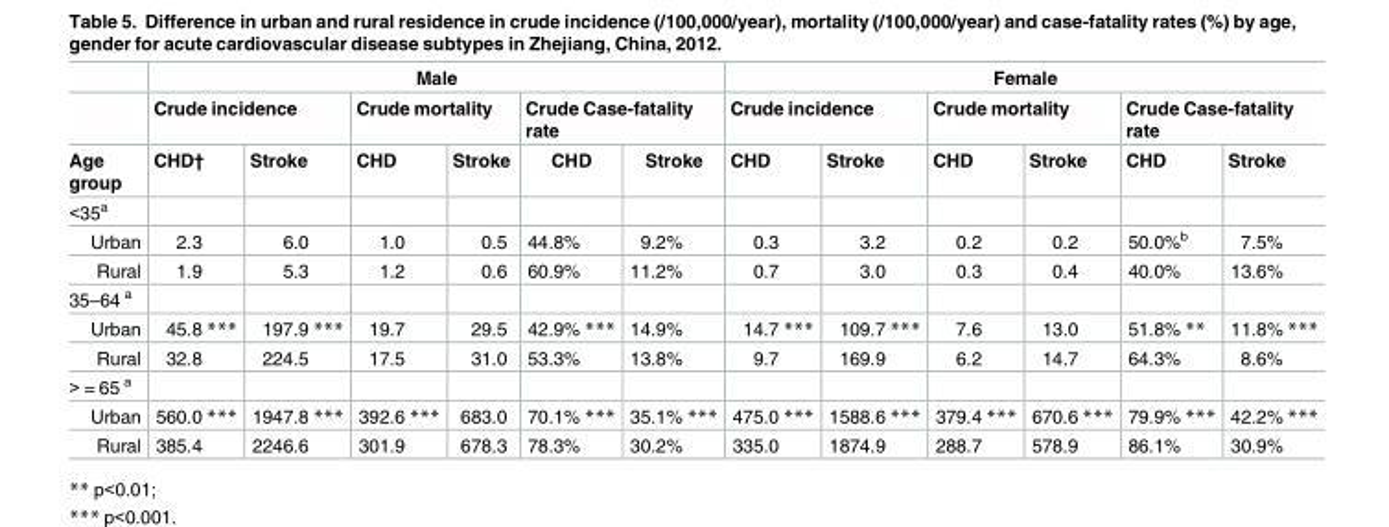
<table><thead><tr><td rowspan="3">Age group</td><td colspan="6">Male</td><td colspan="6">Female</td></tr><tr><td colspan="2">Crude incidence</td><td colspan="2">Crude mortality</td><td colspan="2">Crude Case-fatality rate</td><td colspan="2">Crude incidence</td><td colspan="2">Crude mortality</td><td colspan="2">Crude Case-fatality rate</td></tr><tr><td>CHD†</td><td>Stroke</td><td>CHD</td><td>Stroke</td><td>CHD</td><td>Stroke</td><td>CHD</td><td>Stroke</td><td>CHD</td><td>Stroke</td><td>CHD</td><td>Stroke</td></tr></thead><tbody><tr><td colspan="13">&lt;35<sup>a</sup></td></tr><tr><td>Urban</td><td>2.3</td><td>6.0</td><td>1.0</td><td>0.5</td><td>44.8%</td><td>9.2%</td><td>0.3</td><td>3.2</td><td>0.2</td><td>0.2</td><td>50.0%<sup>b</sup></td><td>7.5%</td></tr><tr><td>Rural</td><td>1.9</td><td>5.3</td><td>1.2</td><td>0.6</td><td>60.9%</td><td>11.2%</td><td>0.7</td><td>3.0</td><td>0.3</td><td>0.4</td><td>40.0%</td><td>13.6%</td></tr><tr><td colspan="13">35–64 <sup>a</sup></td></tr><tr><td>Urban</td><td>45.8 ***</td><td>197.9 ***</td><td>19.7</td><td>29.5</td><td>42.9% ***</td><td>14.9%</td><td>14.7 ***</td><td>109.7 ***</td><td>7.6</td><td>13.0</td><td>51.8% **</td><td>11.8% ***</td></tr><tr><td>Rural</td><td>32.8</td><td>224.5</td><td>17.5</td><td>31.0</td><td>53.3%</td><td>13.8%</td><td>9.7</td><td>169.9</td><td>6.2</td><td>14.7</td><td>64.3%</td><td>8.6%</td></tr><tr><td colspan="13">&gt; = 65 <sup>a</sup></td></tr><tr><td>Urban</td><td>560.0 ***</td><td>1947.8 ***</td><td>392.6 ***</td><td>683.0</td><td>70.1% ***</td><td>35.1% ***</td><td>475.0 ***</td><td>1588.6 ***</td><td>379.4 ***</td><td>670.6 ***</td><td>79.9% ***</td><td>42.2% ***</td></tr><tr><td>Rural</td><td>385.4</td><td>2246.6</td><td>301.9</td><td>678.3</td><td>78.3%</td><td>30.2%</td><td>335.0</td><td>1874.9</td><td>288.7</td><td>578.9</td><td>86.1%</td><td>30.9%</td></tr></tbody></table>